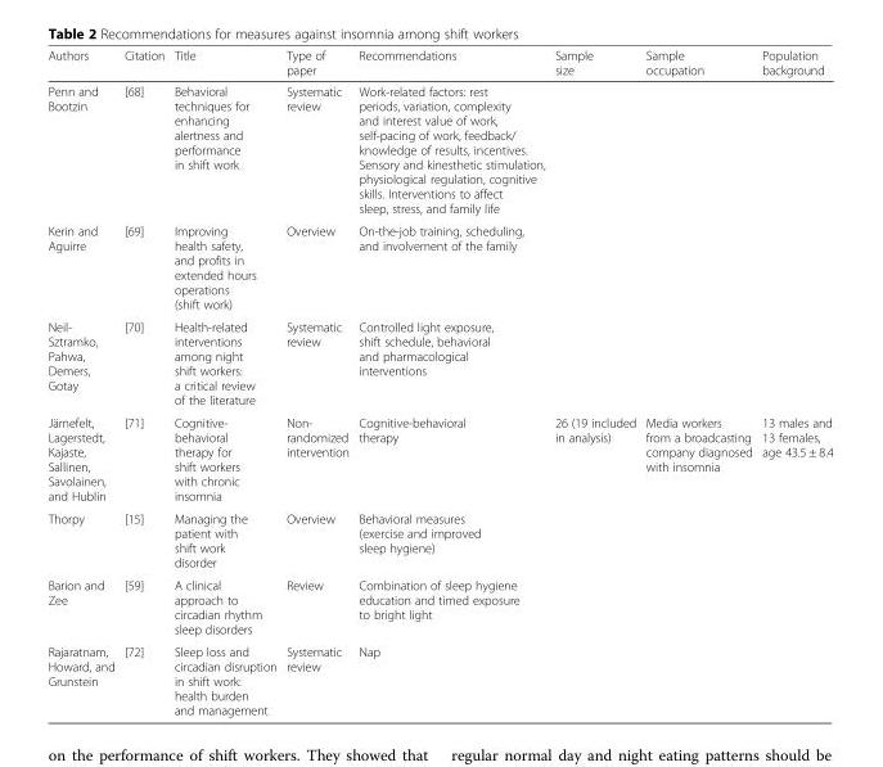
<table><thead><tr><td>Authors</td><td>Citation</td><td>Title</td><td>Type of paper</td><td>Recommendations</td><td>Sample size</td><td>Sample occupation</td><td>Population background</td></tr></thead><tbody><tr><td>Penn and Bootzin</td><td>[68]</td><td>Behavioral techniques for enhancing alertness and performance in shift work</td><td>Systematic review</td><td>Work-related factors: rest periods, variation, complexity and interest value of work, self-pacing of work, feedback/ knowledge of results, incentives. Sensory and kinesthetic stimulation, physiological regulation, cognitive skills. Interventions to affect sleep, stress, and family life</td><td></td><td></td><td></td></tr><tr><td>Kerin and Aguirre</td><td>[69]</td><td>Improving health safety, and profits in extended hours operations (shift work)</td><td>Overview</td><td>On-the-job training, scheduling, and involvement of the family</td><td></td><td></td><td></td></tr><tr><td>Neil- Sztramko, Pahwa, Demers, Gotay</td><td>[70]</td><td>Health-related interventions among night shift workers: a critical review of the literature</td><td>Systematic review</td><td>Controlled light exposure, shift schedule, behavioral and pharmacological interventions</td><td></td><td></td><td></td></tr><tr><td>Järnefelt, Lagerstedt, Kajaste, Sallinen, Savolainen, and Hublin</td><td>[71]</td><td>Cognitive- behavioral therapy for shift workers with chronic insomnia</td><td>Non- randomized intervention</td><td>Cognitive-behavioral therapy</td><td>26 (19 included in analysis)</td><td>Media workers from a broadcasting company diagnosed with insomnia</td><td>13 males and 13 females, age 43.5 ± 8.4</td></tr><tr><td>Thorpy</td><td>[15]</td><td>Managing the patient with shift work disorder</td><td>Overview</td><td>Behavioral measures (exercise and improved sleep hygiene)</td><td></td><td></td><td></td></tr><tr><td>Barion and Zee</td><td>[59]</td><td>A clinical approach to circadian rhythm sleep disorders</td><td>Review</td><td>Combination of sleep hygiene education and timed exposure to bright light</td><td></td><td></td><td></td></tr><tr><td>Rajaratnam, Howard, and Grunstein</td><td>[72]</td><td>Sleep loss and circadian disruption in shift work: health burden and management</td><td>Systematic review</td><td>Nap</td><td></td><td></td><td></td></tr></tbody></table>